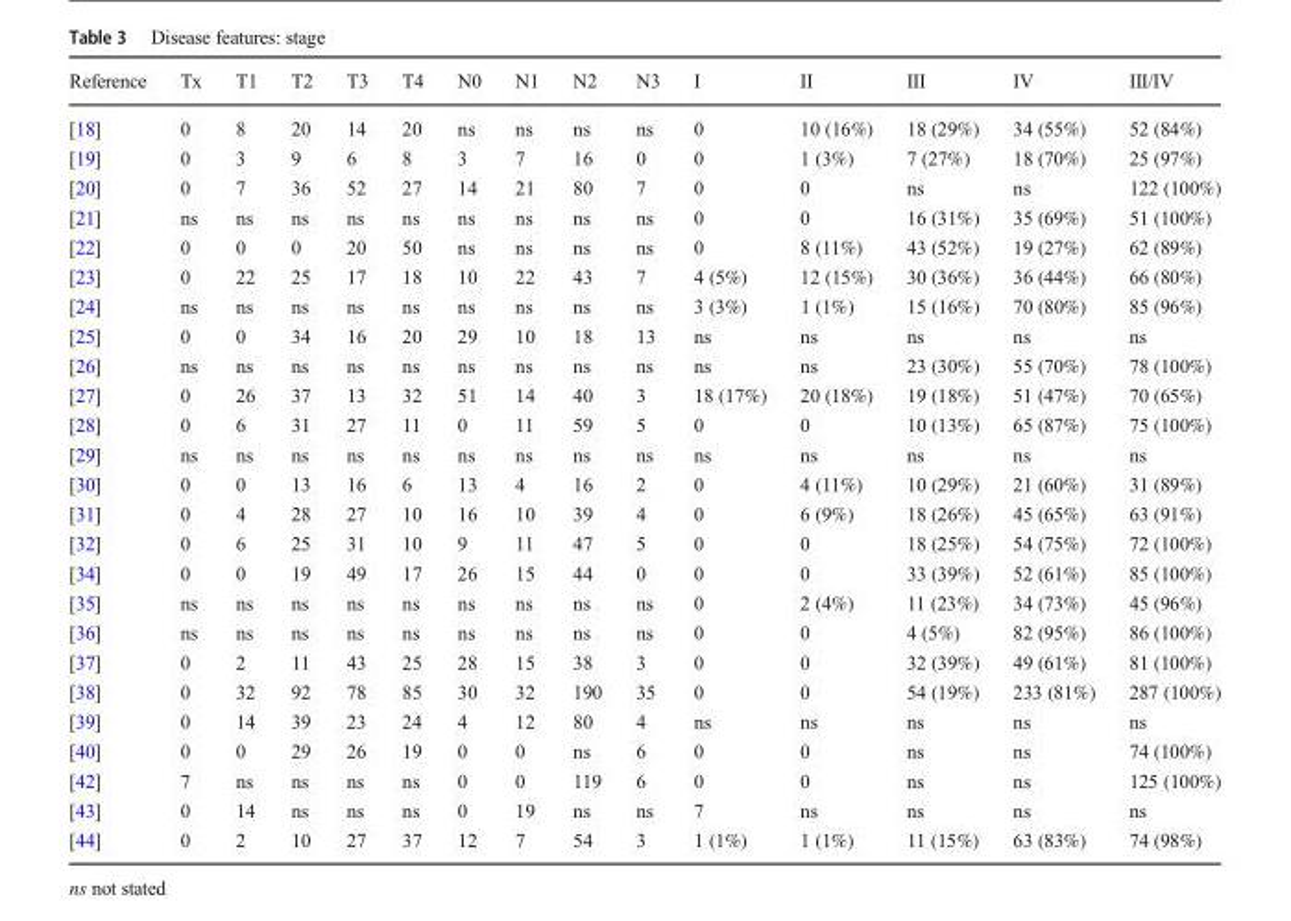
<table><thead><tr><td>Reference</td><td>Tx</td><td>T1</td><td>T2</td><td>T3</td><td>T4</td><td>N0</td><td>N1</td><td>N2</td><td>N3</td><td>I</td><td>II</td><td>III</td><td>IV</td><td>III/IV</td></tr></thead><tbody><tr><td>[18]</td><td>0</td><td>8</td><td>20</td><td>14</td><td>20</td><td>ns</td><td>ns</td><td>ns</td><td>ns</td><td>0</td><td>10 (16%)</td><td>18 (29%)</td><td>34 (55%)</td><td>52 (84%)</td></tr><tr><td>[19]</td><td>0</td><td>3</td><td>9</td><td>6</td><td>8</td><td>3</td><td>7</td><td>16</td><td>0</td><td>0</td><td>1 (3%)</td><td>7 (27%)</td><td>18 (70%)</td><td>25 (97%)</td></tr><tr><td>[20]</td><td>0</td><td>7</td><td>36</td><td>52</td><td>27</td><td>14</td><td>21</td><td>80</td><td>7</td><td>0</td><td>0</td><td>ns</td><td>ns</td><td>122 (100%)</td></tr><tr><td>[21]</td><td>ns</td><td>ns</td><td>ns</td><td>ns</td><td>ns</td><td>ns</td><td>ns</td><td>ns</td><td>ns</td><td>0</td><td>0</td><td>16 (31%)</td><td>35 (69%)</td><td>51 (100%)</td></tr><tr><td>[22]</td><td>0</td><td>0</td><td>0</td><td>20</td><td>50</td><td>ns</td><td>ns</td><td>ns</td><td>ns</td><td>0</td><td>8 (11%)</td><td>43 (52%)</td><td>19 (27%)</td><td>62 (89%)</td></tr><tr><td>[23]</td><td>0</td><td>22</td><td>25</td><td>17</td><td>18</td><td>10</td><td>22</td><td>43</td><td>7</td><td>4 (5%)</td><td>12 (15%)</td><td>30 (36%)</td><td>36 (44%)</td><td>66 (80%)</td></tr><tr><td>[24]</td><td>ns</td><td>ns</td><td>ns</td><td>ns</td><td>ns</td><td>ns</td><td>ns</td><td>ns</td><td>ns</td><td>3 (3%)</td><td>1 (1%)</td><td>15 (16%)</td><td>70 (80%)</td><td>85 (96%)</td></tr><tr><td>[25]</td><td>0</td><td>0</td><td>34</td><td>16</td><td>20</td><td>29</td><td>10</td><td>18</td><td>13</td><td>ns</td><td>ns</td><td>ns</td><td>ns</td><td>ns</td></tr><tr><td>[26]</td><td>ns</td><td>ns</td><td>ns</td><td>ns</td><td>ns</td><td>ns</td><td>ns</td><td>ns</td><td>ns</td><td>ns</td><td>ns</td><td>23 (30%)</td><td>55 (70%)</td><td>78 (100%)</td></tr><tr><td>[27]</td><td>0</td><td>26</td><td>37</td><td>13</td><td>32</td><td>51</td><td>14</td><td>40</td><td>3</td><td>18 (17%)</td><td>20 (18%)</td><td>19 (18%)</td><td>51 (47%)</td><td>70 (65%)</td></tr><tr><td>[28]</td><td>0</td><td>6</td><td>31</td><td>27</td><td>11</td><td>0</td><td>11</td><td>59</td><td>5</td><td>0</td><td>0</td><td>10 (13%)</td><td>65 (87%)</td><td>75 (100%)</td></tr><tr><td>[29]</td><td>ns</td><td>ns</td><td>ns</td><td>ns</td><td>ns</td><td>ns</td><td>ns</td><td>ns</td><td>ns</td><td>ns</td><td>ns</td><td>ns</td><td>ns</td><td>ns</td></tr><tr><td>[30]</td><td>0</td><td>0</td><td>13</td><td>16</td><td>6</td><td>13</td><td>4</td><td>16</td><td>2</td><td>0</td><td>4 (11%)</td><td>10 (29%)</td><td>21 (60%)</td><td>31 (89%)</td></tr><tr><td>[31]</td><td>0</td><td>4</td><td>28</td><td>27</td><td>10</td><td>16</td><td>10</td><td>39</td><td>4</td><td>0</td><td>6 (9%)</td><td>18 (26%)</td><td>45 (65%)</td><td>63 (91%)</td></tr><tr><td>[32]</td><td>0</td><td>6</td><td>25</td><td>31</td><td>10</td><td>9</td><td>11</td><td>47</td><td>5</td><td>0</td><td>0</td><td>18 (25%)</td><td>54 (75%)</td><td>72 (100%)</td></tr><tr><td>[34]</td><td>0</td><td>0</td><td>19</td><td>49</td><td>17</td><td>26</td><td>15</td><td>44</td><td>0</td><td>0</td><td>0</td><td>33 (39%)</td><td>52 (61%)</td><td>85 (100%)</td></tr><tr><td>[35]</td><td>ns</td><td>ns</td><td>ns</td><td>ns</td><td>ns</td><td>ns</td><td>ns</td><td>ns</td><td>ns</td><td>0</td><td>2 (4%)</td><td>11 (23%)</td><td>34 (73%)</td><td>45 (96%)</td></tr><tr><td>[36]</td><td>ns</td><td>ns</td><td>ns</td><td>ns</td><td>ns</td><td>ns</td><td>ns</td><td>ns</td><td>ns</td><td>0</td><td>0</td><td>4 (5%)</td><td>82 (95%)</td><td>86 (100%)</td></tr><tr><td>[37]</td><td>0</td><td>2</td><td>11</td><td>43</td><td>25</td><td>28</td><td>15</td><td>38</td><td>3</td><td>0</td><td>0</td><td>32 (39%)</td><td>49 (61%)</td><td>81 (100%)</td></tr><tr><td>[38]</td><td>0</td><td>32</td><td>92</td><td>78</td><td>85</td><td>30</td><td>32</td><td>190</td><td>35</td><td>0</td><td>0</td><td>54 (19%)</td><td>233 (81%)</td><td>287 (100%)</td></tr><tr><td>[39]</td><td>0</td><td>14</td><td>39</td><td>23</td><td>24</td><td>4</td><td>12</td><td>80</td><td>4</td><td>ns</td><td>ns</td><td>ns</td><td>ns</td><td>ns</td></tr><tr><td>[40]</td><td>0</td><td>0</td><td>29</td><td>26</td><td>19</td><td>0</td><td>0</td><td>ns</td><td>6</td><td>0</td><td>0</td><td>ns</td><td>ns</td><td>74 (100%)</td></tr><tr><td>[42]</td><td>7</td><td>ns</td><td>ns</td><td>ns</td><td>ns</td><td>0</td><td>0</td><td>119</td><td>6</td><td>0</td><td>0</td><td>ns</td><td>ns</td><td>125 (100%)</td></tr><tr><td>[43]</td><td>0</td><td>14</td><td>ns</td><td>ns</td><td>ns</td><td>0</td><td>19</td><td>ns</td><td>ns</td><td>7</td><td>ns</td><td>ns</td><td>ns</td><td>ns</td></tr><tr><td>[44]</td><td>0</td><td>2</td><td>10</td><td>27</td><td>37</td><td>12</td><td>7</td><td>54</td><td>3</td><td>1 (1%)</td><td>1 (1%)</td><td>11 (15%)</td><td>63 (83%)</td><td>74 (98%)</td></tr></tbody></table>